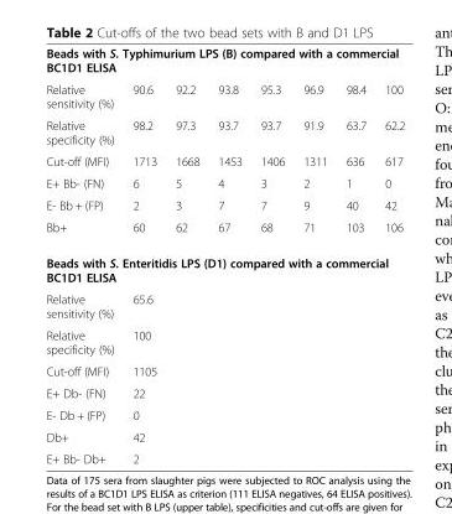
<table><tbody><tr><td colspan="8">Beads with S. Typhimurium LPS (B) compared with a commercial BC1D1 ELISA</td></tr><tr><td>Relative sensitivity (%)</td><td>90.6</td><td>92.2</td><td>93.8</td><td>95.3</td><td>96.9</td><td>98.4</td><td>100</td></tr><tr><td>Relative specificity (%)</td><td>98.2</td><td>97.3</td><td>93.7</td><td>93.7</td><td>91.9</td><td>63.7</td><td>62.2</td></tr><tr><td>Cut-off (MFI)</td><td>1713</td><td>1668</td><td>1453</td><td>1406</td><td>1311</td><td>636</td><td>617</td></tr><tr><td>E+ Bb- (FN)</td><td>6</td><td>5</td><td>4</td><td>3</td><td>2</td><td>1</td><td>0</td></tr><tr><td>E- Bb + (FP)</td><td>2</td><td>3</td><td>7</td><td>7</td><td>9</td><td>40</td><td>42</td></tr><tr><td>Bb+</td><td>60</td><td>62</td><td>67</td><td>68</td><td>71</td><td>103</td><td>106</td></tr><tr><td colspan="8">Beads with S. Enteritidis LPS (D1) compared with a commercial BC1D1 ELISA</td></tr><tr><td>Relative sensitivity (%)</td><td>65.6</td><td></td><td></td><td></td><td></td><td></td><td></td></tr><tr><td>Relative specificity (%)</td><td>100</td><td></td><td></td><td></td><td></td><td></td><td></td></tr><tr><td>Cut-off (MFI)</td><td>1105</td><td></td><td></td><td></td><td></td><td></td><td></td></tr><tr><td>E+ Db- (FN)</td><td>22</td><td></td><td></td><td></td><td></td><td></td><td></td></tr><tr><td>E- Db + (FP)</td><td>0</td><td></td><td></td><td></td><td></td><td></td><td></td></tr><tr><td>Db+</td><td>42</td><td></td><td></td><td></td><td></td><td></td><td></td></tr><tr><td>E+ Bb- Db+</td><td>2</td><td></td><td></td><td></td><td></td><td></td><td></td></tr></tbody></table>